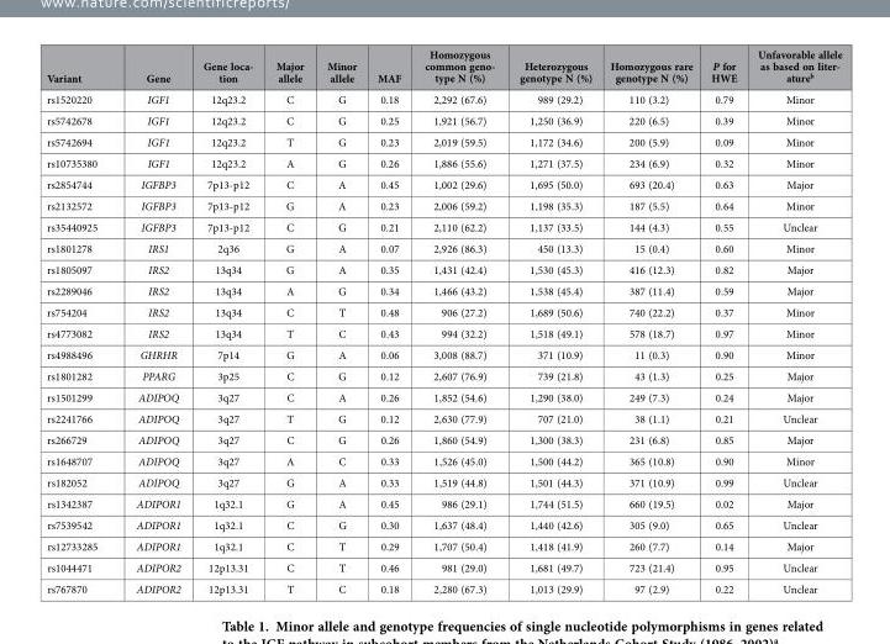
<table><thead><tr><td>Variant</td><td>Gene</td><td>Gene loca- tion</td><td>Major allele</td><td>Minor allele</td><td>MAF</td><td>Homozygous common geno- type N (%)</td><td>Heterozygous genotype N (%)</td><td>Homozygous rare genotype N (%)</td><td>P for HWE</td><td>Unfavorable allele as based on liter- atureb</td></tr></thead><tbody><tr><td>rs1520220</td><td>IGF1</td><td>12q23.2</td><td>C</td><td>G</td><td>0.18</td><td>2,292 (67.6)</td><td>989 (29.2)</td><td>110 (3.2)</td><td>0.79</td><td>Minor</td></tr><tr><td>rs5742678</td><td>IGF1</td><td>12q23.2</td><td>C</td><td>G</td><td>0.25</td><td>1,921 (56.7)</td><td>1,250 (36.9)</td><td>220 (6.5)</td><td>0.39</td><td>Minor</td></tr><tr><td>rs5742694</td><td>IGF1</td><td>12q23.2</td><td>T</td><td>G</td><td>0.23</td><td>2,019 (59.5)</td><td>1,172 (34.6)</td><td>200 (5.9)</td><td>0.09</td><td>Minor</td></tr><tr><td>rs10735380</td><td>IGF1</td><td>12q23.2</td><td>A</td><td>G</td><td>0.26</td><td>1,886 (55.6)</td><td>1,271 (37.5)</td><td>234 (6.9)</td><td>0.32</td><td>Minor</td></tr><tr><td>rs2854744</td><td>IGFBP3</td><td>7p13-p12</td><td>C</td><td>A</td><td>0.45</td><td>1,002 (29.6)</td><td>1,695 (50.0)</td><td>693 (20.4)</td><td>0.63</td><td>Major</td></tr><tr><td>rs2132572</td><td>IGFBP3</td><td>7p13-p12</td><td>G</td><td>A</td><td>0.23</td><td>2,006 (59.2)</td><td>1,198 (35.3)</td><td>187 (5.5)</td><td>0.64</td><td>Minor</td></tr><tr><td>rs35440925</td><td>IGFBP3</td><td>7p13-p12</td><td>C</td><td>G</td><td>0.21</td><td>2,110 (62.2)</td><td>1,137 (33.5)</td><td>144 (4.3)</td><td>0.55</td><td>Unclear</td></tr><tr><td>rs1801278</td><td>IRS1</td><td>2q36</td><td>G</td><td>A</td><td>0.07</td><td>2,926 (86.3)</td><td>450 (13.3)</td><td>15 (0.4)</td><td>0.60</td><td>Minor</td></tr><tr><td>rs1805097</td><td>IRS2</td><td>13q34</td><td>G</td><td>A</td><td>0.35</td><td>1,431 (42.4)</td><td>1,530 (45.3)</td><td>416 (12.3)</td><td>0.82</td><td>Major</td></tr><tr><td>rs2289046</td><td>IRS2</td><td>13q34</td><td>A</td><td>G</td><td>0.34</td><td>1,466 (43.2)</td><td>1,538 (45.4)</td><td>387 (11.4)</td><td>0.59</td><td>Major</td></tr><tr><td>rs754204</td><td>IRS2</td><td>13q34</td><td>C</td><td>T</td><td>0.48</td><td>906 (27.2)</td><td>1,689 (50.6)</td><td>740 (22.2)</td><td>0.37</td><td>Minor</td></tr><tr><td>rs4773082</td><td>IRS2</td><td>13q34</td><td>T</td><td>C</td><td>0.43</td><td>994 (32.2)</td><td>1,518 (49.1)</td><td>578 (18.7)</td><td>0.97</td><td>Minor</td></tr><tr><td>rs4988496</td><td>GHRHR</td><td>7p14</td><td>G</td><td>A</td><td>0.06</td><td>3,008 (88.7)</td><td>371 (10.9)</td><td>11 (0.3)</td><td>0.90</td><td>Minor</td></tr><tr><td>rs1801282</td><td>PPARG</td><td>3p25</td><td>C</td><td>G</td><td>0.12</td><td>2,607 (76.9)</td><td>739 (21.8)</td><td>43 (1.3)</td><td>0.25</td><td>Major</td></tr><tr><td>rs1501299</td><td>ADIPOQ</td><td>3q27</td><td>C</td><td>A</td><td>0.26</td><td>1,852 (54.6)</td><td>1,290 (38.0)</td><td>249 (7.3)</td><td>0.24</td><td>Major</td></tr><tr><td>rs2241766</td><td>ADIPOQ</td><td>3q27</td><td>T</td><td>G</td><td>0.12</td><td>2,630 (77.9)</td><td>707 (21.0)</td><td>38 (1.1)</td><td>0.21</td><td>Unclear</td></tr><tr><td>rs266729</td><td>ADIPOQ</td><td>3q27</td><td>C</td><td>G</td><td>0.26</td><td>1,860 (54.9)</td><td>1,300 (38.3)</td><td>231 (6.8)</td><td>0.85</td><td>Major</td></tr><tr><td>rs1648707</td><td>ADIPOQ</td><td>3q27</td><td>A</td><td>C</td><td>0.33</td><td>1,526 (45.0)</td><td>1,500 (44.2)</td><td>365 (10.8)</td><td>0.90</td><td>Minor</td></tr><tr><td>rs182052</td><td>ADIPOQ</td><td>3q27</td><td>G</td><td>A</td><td>0.33</td><td>1,519 (44.8)</td><td>1,501 (44.3)</td><td>371 (10.9)</td><td>0.99</td><td>Unclear</td></tr><tr><td>rs1342387</td><td>ADIPOR1</td><td>1q32.1</td><td>G</td><td>A</td><td>0.45</td><td>986 (29.1)</td><td>1,744 (51.5)</td><td>660 (19.5)</td><td>0.02</td><td>Major</td></tr><tr><td>rs7539542</td><td>ADIPOR1</td><td>1q32.1</td><td>C</td><td>G</td><td>0.30</td><td>1,637 (48.4)</td><td>1,440 (42.6)</td><td>305 (9.0)</td><td>0.65</td><td>Unclear</td></tr><tr><td>rs12733285</td><td>ADIPOR1</td><td>1q32.1</td><td>C</td><td>T</td><td>0.29</td><td>1,707 (50.4)</td><td>1,418 (41.9)</td><td>260 (7.7)</td><td>0.14</td><td>Major</td></tr><tr><td>rs1044471</td><td>ADIPOR2</td><td>12p13.31</td><td>C</td><td>T</td><td>0.46</td><td>981 (29.0)</td><td>1,681 (49.7)</td><td>723 (21.4)</td><td>0.95</td><td>Unclear</td></tr><tr><td>rs767870</td><td>ADIPOR2</td><td>12p13.31</td><td>T</td><td>C</td><td>0.18</td><td>2,280 (67.3)</td><td>1,013 (29.9)</td><td>97 (2.9)</td><td>0.22</td><td>Unclear</td></tr></tbody></table>